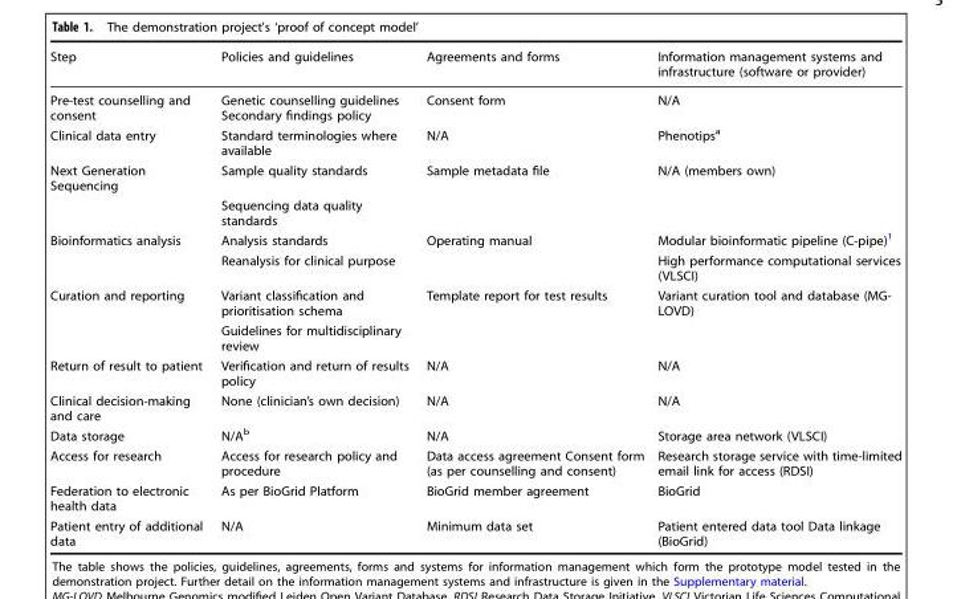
<table><thead><tr><td>Step</td><td>Policies and guidelines</td><td>Agreements and forms</td><td>Information management systems and infrastructure (software or provider)</td></tr></thead><tbody><tr><td>Pre-test counselling and consent</td><td>Genetic counselling guidelines Secondary findings policy</td><td>Consent form</td><td>N/A</td></tr><tr><td>Clinical data entry</td><td>Standard terminologies where available</td><td>N/A</td><td>Phenotips<sup>a</sup></td></tr><tr><td rowspan="2">Next Generation Sequencing</td><td>Sample quality standards</td><td>Sample metadata file</td><td>N/A (members own)</td></tr><tr><td>Sequencing data quality standards</td><td></td><td></td></tr><tr><td rowspan="2">Bioinformatics analysis</td><td>Analysis standards</td><td>Operating manual</td><td>Modular bioinformatic pipeline (C-pipe)<sup>1</sup></td></tr><tr><td>Reanalysis for clinical purpose</td><td></td><td>High performance computational services (VLSCI)</td></tr><tr><td rowspan="2">Curation and reporting</td><td>Variant classification and prioritisation schema</td><td>Template report for test results</td><td>Variant curation tool and database (MG- LOVD)</td></tr><tr><td>Guidelines for multidisciplinary review</td><td></td><td></td></tr><tr><td>Return of result to patient</td><td>Verification and return of results policy</td><td>N/A</td><td>N/A</td></tr><tr><td>Clinical decision-making and care</td><td>None (clinician’s own decision)</td><td>N/A</td><td>N/A</td></tr><tr><td>Data storage</td><td>N/A<sup>b</sup></td><td>N/A</td><td>Storage area network (VLSCI)</td></tr><tr><td>Access for research</td><td>Access for research policy and procedure</td><td>Data access agreement Consent form (as per counselling and consent)</td><td>Research storage service with time-limited email link for access (RDSI)</td></tr><tr><td>Federation to electronic health data</td><td>As per BioGrid Platform</td><td>BioGrid member agreement</td><td>BioGrid</td></tr><tr><td>Patient entry of additional data</td><td>N/A</td><td>Minimum data set</td><td>Patient entered data tool Data linkage (BioGrid)</td></tr></tbody></table>